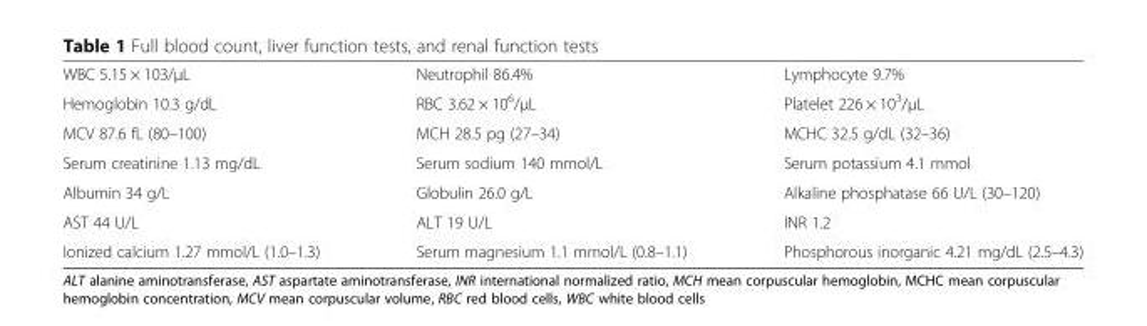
<table><tbody><tr><td>WBC 5.15 × 103/μL</td><td>Neutrophil 86.4%</td><td>Lymphocyte 9.7%</td></tr><tr><td>Hemoglobin 10.3 g/dL</td><td>RBC 3.62 × 10<sup>6</sup>/μL</td><td>Platelet 226 × 10<sup>3</sup>/μL</td></tr><tr><td>MCV 87.6 fL (80–100)</td><td>MCH 28.5 pg (27–34)</td><td>MCHC 32.5 g/dL (32–36)</td></tr><tr><td>Serum creatinine 1.13 mg/dL</td><td>Serum sodium 140 mmol/L</td><td>Serum potassium 4.1 mmol</td></tr><tr><td>Albumin 34 g/L</td><td>Globulin 26.0 g/L</td><td>Alkaline phosphatase 66 U/L (30–120)</td></tr><tr><td>AST 44 U/L</td><td>ALT 19 U/L</td><td>INR 1.2</td></tr><tr><td>Ionized calcium 1.27 mmol/L (1.0–1.3)</td><td>Serum magnesium 1.1 mmol/L (0.8–1.1)</td><td>Phosphorous inorganic 4.21 mg/dL (2.5–4.3)</td></tr></tbody></table>